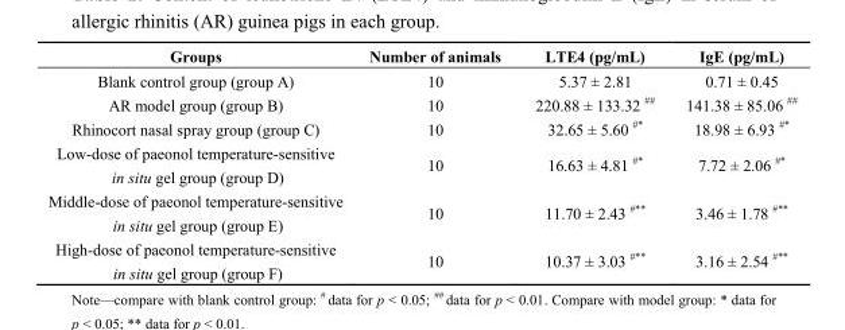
<table><thead><tr><td>Groups</td><td>Number of animals</td><td>LTE4 (pg/mL)</td><td>IgE (pg/mL)</td></tr></thead><tbody><tr><td>Blank control group (group A)</td><td>10</td><td>5.37 ± 2.81</td><td>0.71 ± 0.45</td></tr><tr><td>AR model group (group B)</td><td>10</td><td>220.88 ± 133.32 ##</td><td>141.38 ± 85.06 ##</td></tr><tr><td>Rhinocort nasal spray group (group C)</td><td>10</td><td>32.65 ± 5.60 #*</td><td>18.98 ± 6.93 #*</td></tr><tr><td>Low-dose of paeonol temperature-sensitive in situ gel group (group D)</td><td>10</td><td>16.63 ± 4.81 #*</td><td>7.72 ± 2.06 #*</td></tr><tr><td>Middle-dose of paeonol temperature-sensitive in situ gel group (group E)</td><td>10</td><td>11.70 ± 2.43 #**</td><td>3.46 ± 1.78 #**</td></tr><tr><td>High-dose of paeonol temperature-sensitive in situ gel group (group F)</td><td>10</td><td>10.37 ± 3.03 #**</td><td>3.16 ± 2.54 #**</td></tr></tbody></table>